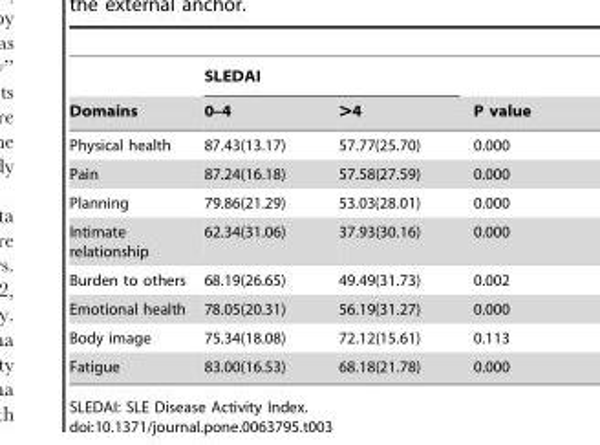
<table><thead><tr><td rowspan="2">Domains</td><td colspan="2">SLEDAI</td><td rowspan="2">P value</td></tr><tr><td>0–4</td><td>&gt;4</td></tr></thead><tbody><tr><td>Physical health</td><td>87.43(13.17)</td><td>57.77(25.70)</td><td>0.000</td></tr><tr><td>Pain</td><td>87.24(16.18)</td><td>57.58(27.59)</td><td>0.000</td></tr><tr><td>Planning</td><td>79.86(21.29)</td><td>53.03(28.01)</td><td>0.000</td></tr><tr><td>Intimate relationship</td><td>62.34(31.06)</td><td>37.93(30.16)</td><td>0.000</td></tr><tr><td>Burden to others</td><td>68.19(26.65)</td><td>49.49(31.73)</td><td>0.002</td></tr><tr><td>Emotional health</td><td>78.05(20.31)</td><td>56.19(31.27)</td><td>0.000</td></tr><tr><td>Body image</td><td>75.34(18.08)</td><td>72.12(15.61)</td><td>0.113</td></tr><tr><td>Fatigue</td><td>83.00(16.53)</td><td>68.18(21.78)</td><td>0.000</td></tr></tbody></table>